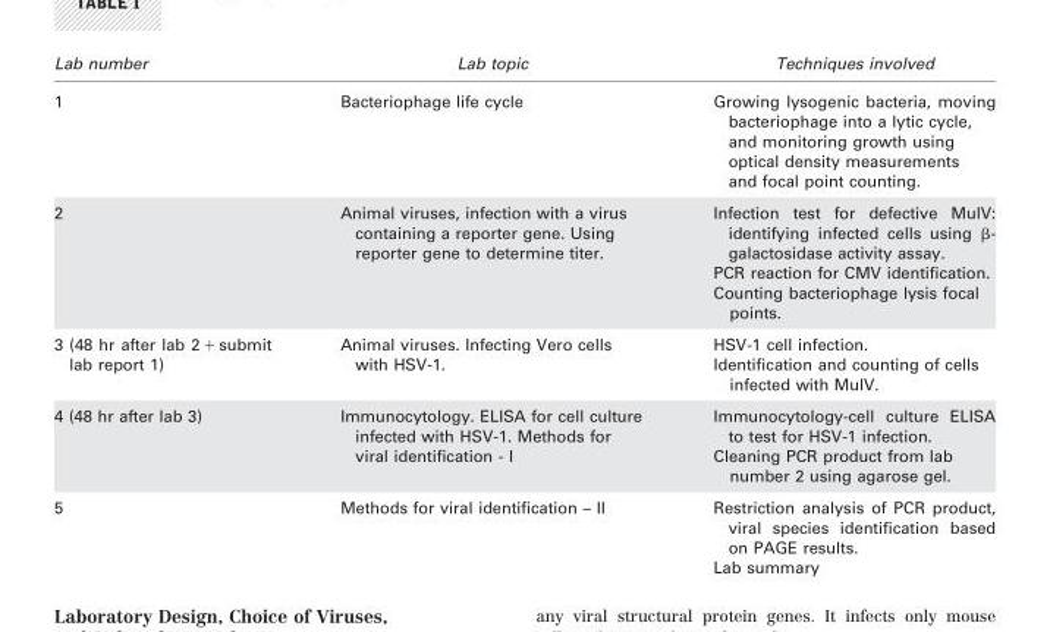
<table><thead><tr><td>Lab number</td><td>Lab topic</td><td>Techniques involved</td></tr></thead><tbody><tr><td>1</td><td>Bacteriophage life cycle</td><td>Growing lysogenic bacteria, moving bacteriophage into a lytic cycle, and monitoring growth using optical density measurements and focal point counting.</td></tr><tr><td>2</td><td>Animal viruses, infection with a virus containing a reporter gene. Using reporter gene to determine titer.</td><td>Infection test for defective MulV: identifying infected cells using β- galactosidase activity assay. PCR reaction for CMV identification. Counting bacteriophage lysis focal points.</td></tr><tr><td>3 (48 hr after lab 2 + submit lab report 1)</td><td>Animal viruses. Infecting Vero cells with HSV-1.</td><td>HSV-1 cell infection. Identification and counting of cells infected with MulV.</td></tr><tr><td>4 (48 hr after lab 3)</td><td>Immunocytology. ELISA for cell culture infected with HSV-1. Methods for viral identification - I</td><td>Immunocytology-cell culture ELISA to test for HSV-1 infection. Cleaning PCR product from lab number 2 using agarose gel.</td></tr><tr><td>5</td><td>Methods for viral identification – II</td><td>Restriction analysis of PCR product, viral species identification based on PAGE results. Lab summary</td></tr></tbody></table>